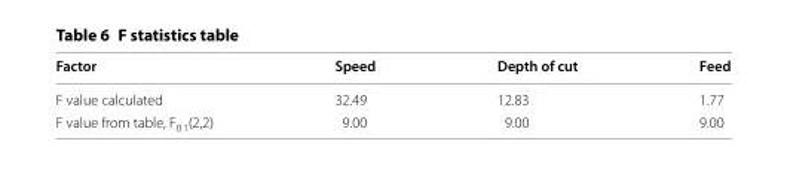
<table><thead><tr><td>Factor</td><td>Speed</td><td>Depth of cut</td><td>Feed</td></tr></thead><tbody><tr><td>F value calculated</td><td>32.49</td><td>12.83</td><td>1.77</td></tr><tr><td>F value from table, F<sub>0.1</sub>(2,2)</td><td>9.00</td><td>9.00</td><td>9.00</td></tr></tbody></table>